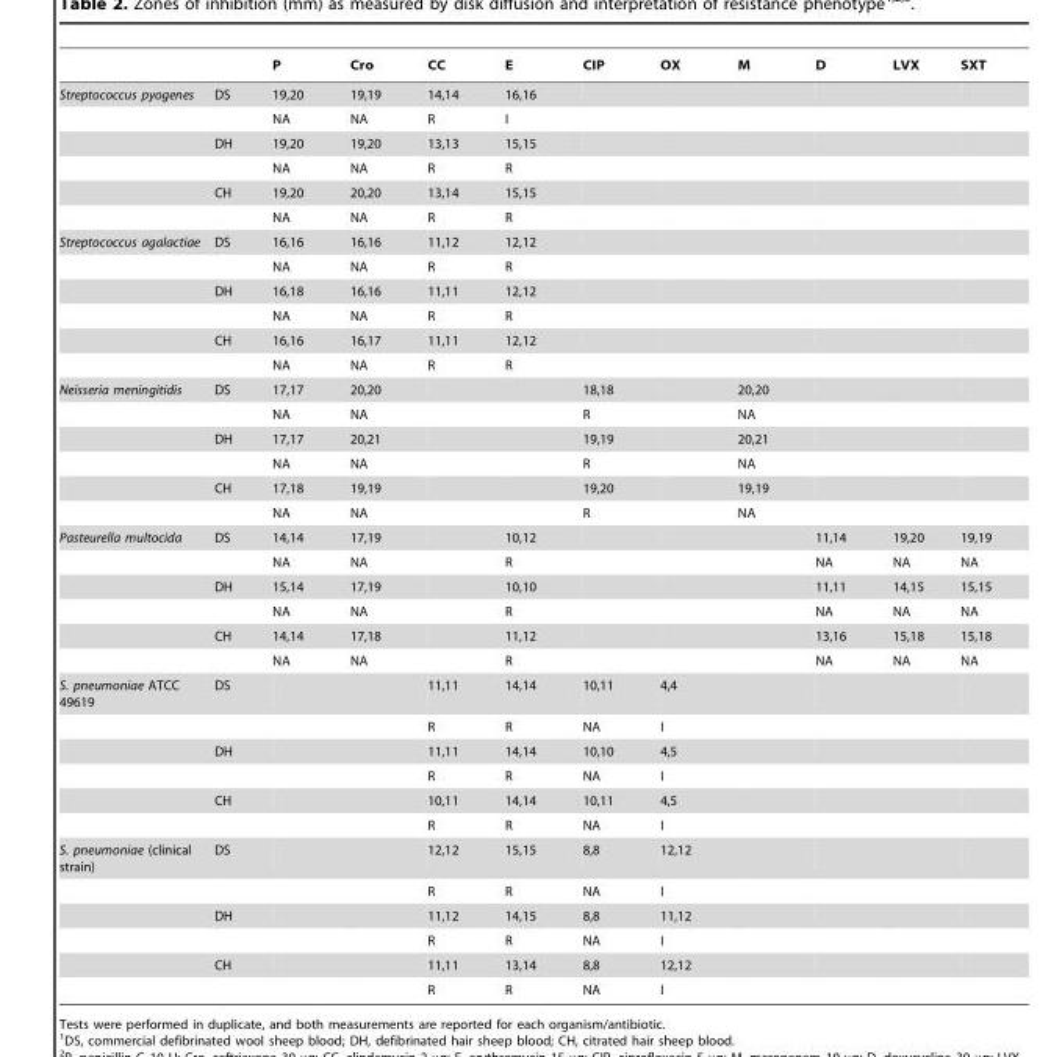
<table><thead><tr><td></td><td></td><td>P</td><td>Cro</td><td>CC</td><td>E</td><td>CIP</td><td>OX</td><td>M</td><td>D</td><td>LVX</td><td>SXT</td></tr></thead><tbody><tr><td rowspan="6">Streptococcus pyogenes</td><td>DS</td><td>19,20</td><td>19,19</td><td>14,14</td><td>16,16</td><td></td><td></td><td></td><td></td><td></td><td></td></tr><tr><td></td><td>NA</td><td>NA</td><td>R</td><td>I</td><td></td><td></td><td></td><td></td><td></td><td></td></tr><tr><td>DH</td><td>19,20</td><td>19,20</td><td>13,13</td><td>15,15</td><td></td><td></td><td></td><td></td><td></td><td></td></tr><tr><td></td><td>NA</td><td>NA</td><td>R</td><td>R</td><td></td><td></td><td></td><td></td><td></td><td></td></tr><tr><td>CH</td><td>19,20</td><td>20,20</td><td>13,14</td><td>15,15</td><td></td><td></td><td></td><td></td><td></td><td></td></tr><tr><td></td><td>NA</td><td>NA</td><td>R</td><td>R</td><td></td><td></td><td></td><td></td><td></td><td></td></tr><tr><td rowspan="6">Streptococcus agalactiae</td><td>DS</td><td>16,16</td><td>16,16</td><td>11,12</td><td>12,12</td><td></td><td></td><td></td><td></td><td></td><td></td></tr><tr><td></td><td>NA</td><td>NA</td><td>R</td><td>R</td><td></td><td></td><td></td><td></td><td></td><td></td></tr><tr><td>DH</td><td>16,18</td><td>16,16</td><td>11,11</td><td>12,12</td><td></td><td></td><td></td><td></td><td></td><td></td></tr><tr><td></td><td>NA</td><td>NA</td><td>R</td><td>R</td><td></td><td></td><td></td><td></td><td></td><td></td></tr><tr><td>CH</td><td>16,16</td><td>16,17</td><td>11,11</td><td>12,12</td><td></td><td></td><td></td><td></td><td></td><td></td></tr><tr><td></td><td>NA</td><td>NA</td><td>R</td><td>R</td><td></td><td></td><td></td><td></td><td></td><td></td></tr><tr><td rowspan="6">Neisseria meningitidis</td><td>DS</td><td>17,17</td><td>20,20</td><td></td><td></td><td>18,18</td><td></td><td>20,20</td><td></td><td></td><td></td></tr><tr><td></td><td>NA</td><td>NA</td><td></td><td></td><td>R</td><td></td><td>NA</td><td></td><td></td><td></td></tr><tr><td>DH</td><td>17,17</td><td>20,21</td><td></td><td></td><td>19,19</td><td></td><td>20,21</td><td></td><td></td><td></td></tr><tr><td></td><td>NA</td><td>NA</td><td></td><td></td><td>R</td><td></td><td>NA</td><td></td><td></td><td></td></tr><tr><td>CH</td><td>17,18</td><td>19,19</td><td></td><td></td><td>19,20</td><td></td><td>19,19</td><td></td><td></td><td></td></tr><tr><td></td><td>NA</td><td>NA</td><td></td><td></td><td>R</td><td></td><td>NA</td><td></td><td></td><td></td></tr><tr><td rowspan="6">Pasteurella multocida</td><td>DS</td><td>14,14</td><td>17,19</td><td></td><td>10,12</td><td></td><td></td><td></td><td>11,14</td><td>19,20</td><td>19,19</td></tr><tr><td></td><td>NA</td><td>NA</td><td></td><td>R</td><td></td><td></td><td></td><td>NA</td><td>NA</td><td>NA</td></tr><tr><td>DH</td><td>15,14</td><td>17,19</td><td></td><td>10,10</td><td></td><td></td><td></td><td>11,11</td><td>14,15</td><td>15,15</td></tr><tr><td></td><td>NA</td><td>NA</td><td></td><td>R</td><td></td><td></td><td></td><td>NA</td><td>NA</td><td>NA</td></tr><tr><td>CH</td><td>14,14</td><td>17,18</td><td></td><td>11,12</td><td></td><td></td><td></td><td>13,16</td><td>15,18</td><td>15,18</td></tr><tr><td></td><td>NA</td><td>NA</td><td></td><td>R</td><td></td><td></td><td></td><td>NA</td><td>NA</td><td>NA</td></tr><tr><td rowspan="6">S. pneumoniae ATCC 49619</td><td>DS</td><td></td><td></td><td>11,11</td><td>14,14</td><td>10,11</td><td>4,4</td><td></td><td></td><td></td><td></td></tr><tr><td></td><td></td><td></td><td>R</td><td>R</td><td>NA</td><td>I</td><td></td><td></td><td></td><td></td></tr><tr><td>DH</td><td></td><td></td><td>11,11</td><td>14,14</td><td>10,10</td><td>4,5</td><td></td><td></td><td></td><td></td></tr><tr><td></td><td></td><td></td><td>R</td><td>R</td><td>NA</td><td>I</td><td></td><td></td><td></td><td></td></tr><tr><td>CH</td><td></td><td></td><td>10,11</td><td>14,14</td><td>10,11</td><td>4,5</td><td></td><td></td><td></td><td></td></tr><tr><td></td><td></td><td></td><td>R</td><td>R</td><td>NA</td><td>I</td><td></td><td></td><td></td><td></td></tr><tr><td rowspan="6">S. pneumoniae (clinical strain)</td><td>DS</td><td></td><td></td><td>12,12</td><td>15,15</td><td>8,8</td><td>12,12</td><td></td><td></td><td></td><td></td></tr><tr><td></td><td></td><td></td><td>R</td><td>R</td><td>NA</td><td>I</td><td></td><td></td><td></td><td></td></tr><tr><td>DH</td><td></td><td></td><td>11,12</td><td>14,15</td><td>8,8</td><td>11,12</td><td></td><td></td><td></td><td></td></tr><tr><td></td><td></td><td></td><td>R</td><td>R</td><td>NA</td><td>I</td><td></td><td></td><td></td><td></td></tr><tr><td>CH</td><td></td><td></td><td>11,11</td><td>13,14</td><td>8,8</td><td>12,12</td><td></td><td></td><td></td><td></td></tr><tr><td></td><td></td><td></td><td>R</td><td>R</td><td>NA</td><td>I</td><td></td><td></td><td></td><td></td></tr></tbody></table>